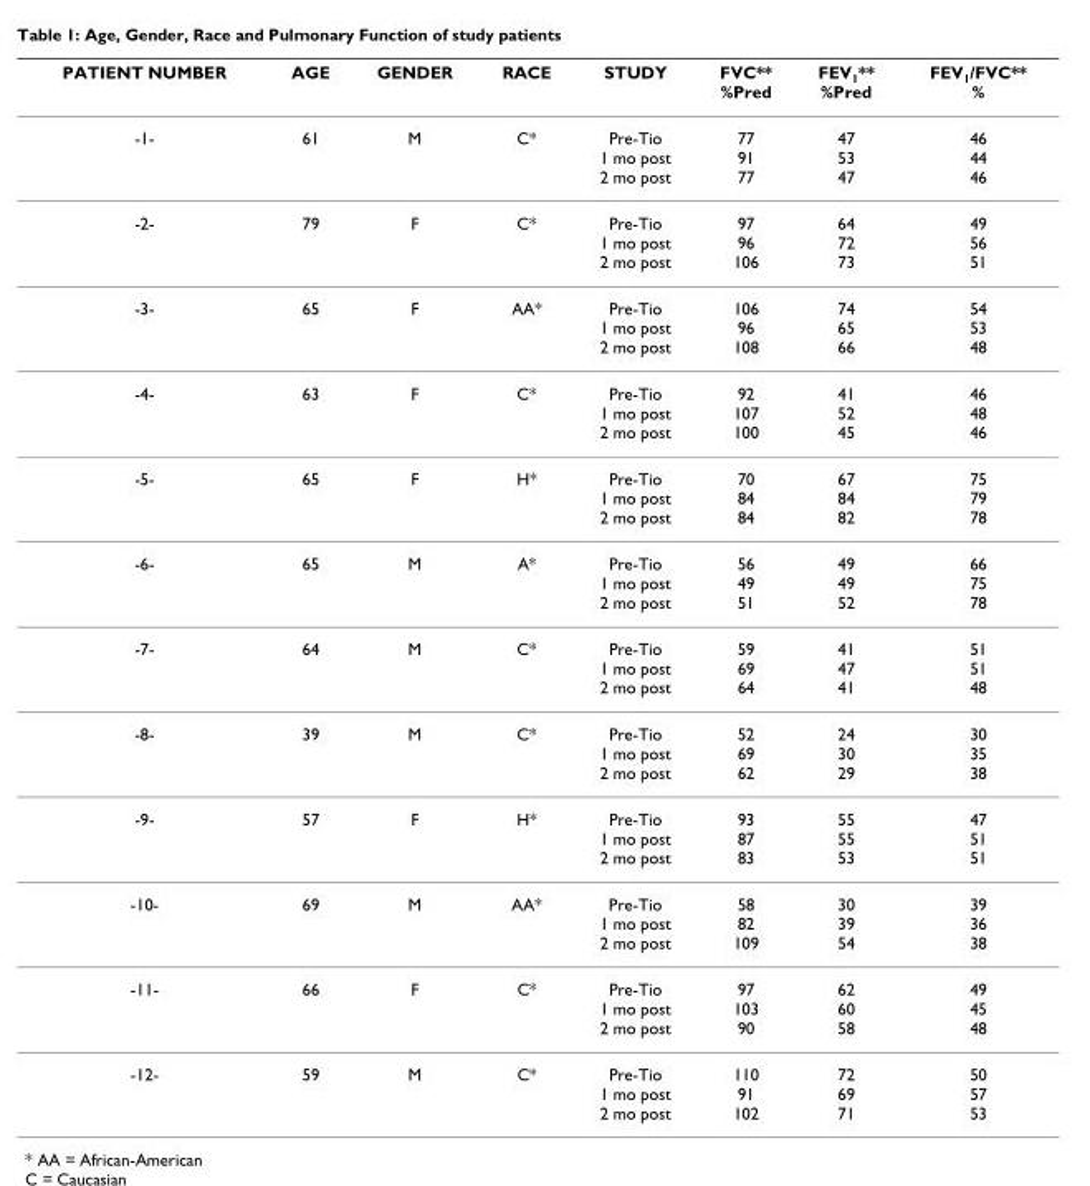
<table><thead><tr><td>PATIENT NUMBER</td><td>AGE</td><td>GENDER</td><td>RACE</td><td>STUDY</td><td>FVC** %Pred</td><td>FEV<sub>1</sub>** %Pred</td><td>FEV<sub>1</sub>/FVC** %</td></tr></thead><tbody><tr><td>-1-</td><td>61</td><td>M</td><td>C*</td><td>Pre-Tio 1 mo post 2 mo post</td><td>77 91 77</td><td>47 53 47</td><td>46 44 46</td></tr><tr><td>-2-</td><td>79</td><td>F</td><td>C*</td><td>Pre-Tio 1 mo post 2 mo post</td><td>97 96 106</td><td>64 72 73</td><td>49 56 51</td></tr><tr><td>-3-</td><td>65</td><td>F</td><td>AA*</td><td>Pre-Tio 1 mo post 2 mo post</td><td>106 96 108</td><td>74 65 66</td><td>54 53 48</td></tr><tr><td>-4-</td><td>63</td><td>F</td><td>C*</td><td>Pre-Tio 1 mo post 2 mo post</td><td>92 107 100</td><td>41 52 45</td><td>46 48 46</td></tr><tr><td>-5-</td><td>65</td><td>F</td><td>H*</td><td>Pre-Tio 1 mo post 2 mo post</td><td>70 84 84</td><td>67 84 82</td><td>75 79 78</td></tr><tr><td>-6-</td><td>65</td><td>M</td><td>A*</td><td>Pre-Tio 1 mo post 2 mo post</td><td>56 49 51</td><td>49 49 52</td><td>66 75 78</td></tr><tr><td>-7-</td><td>64</td><td>M</td><td>C*</td><td>Pre-Tio 1 mo post 2 mo post</td><td>59 69 64</td><td>41 47 41</td><td>51 51 48</td></tr><tr><td>-8-</td><td>39</td><td>M</td><td>C*</td><td>Pre-Tio 1 mo post 2 mo post</td><td>52 69 62</td><td>24 30 29</td><td>30 35 38</td></tr><tr><td>-9-</td><td>57</td><td>F</td><td>H*</td><td>Pre-Tio 1 mo post 2 mo post</td><td>93 87 83</td><td>55 55 53</td><td>47 51 51</td></tr><tr><td>-10-</td><td>69</td><td>M</td><td>AA*</td><td>Pre-Tio 1 mo post 2 mo post</td><td>58 82 109</td><td>30 39 54</td><td>39 36 38</td></tr><tr><td>-11-</td><td>66</td><td>F</td><td>C*</td><td>Pre-Tio 1 mo post 2 mo post</td><td>97 103 90</td><td>62 60 58</td><td>49 45 48</td></tr><tr><td>-12-</td><td>59</td><td>M</td><td>C*</td><td>Pre-Tio 1 mo post 2 mo post</td><td>110 91 102</td><td>72 69 71</td><td>50 57 53</td></tr></tbody></table>